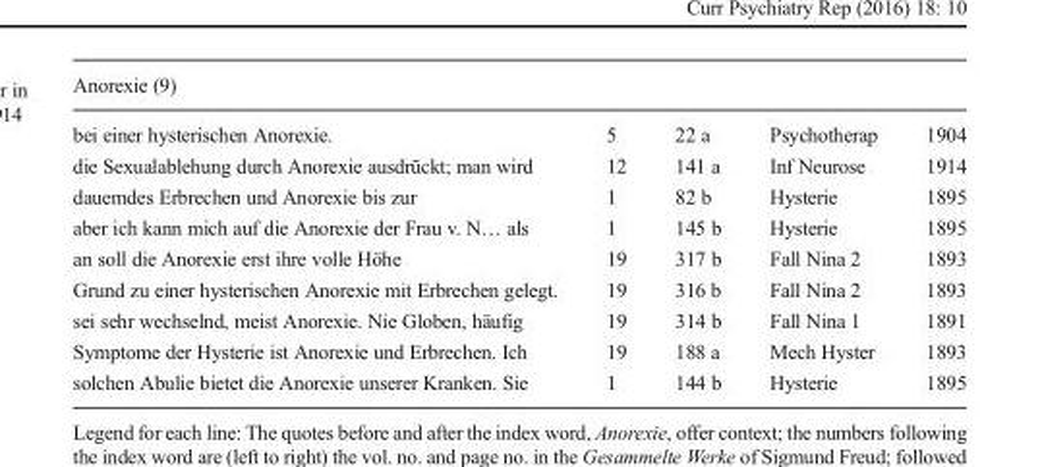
<table><thead><tr><td colspan="5">Anorexie (9)</td></tr><tr><td>bei einer hysterischen Anorexie.</td><td>5</td><td>22 a</td><td>Psychotherap</td><td>1904</td></tr></thead><tbody><tr><td>die Sexualablehung durch Anorexie ausdrūckt; man wird</td><td>12</td><td>141 a</td><td>Inf Neurose</td><td>1914</td></tr><tr><td>dauemdes Erbrechen und Anorexie bis zur</td><td>1</td><td>82 b</td><td>Hysterie</td><td>1895</td></tr><tr><td>aber ich kann mich auf die Anorexie der Frau v. N… als</td><td>1</td><td>145 b</td><td>Hysterie</td><td>1895</td></tr><tr><td>an soll die Anorexie erst ihre volle Höhe</td><td>19</td><td>317 b</td><td>Fall Nina 2</td><td>1893</td></tr><tr><td>Grund zu einer hysterischen Anorexie mit Erbrechen gelegt.</td><td>19</td><td>316 b</td><td>Fall Nina 2</td><td>1893</td></tr><tr><td>sei sehr wechselnd, meist Anorexie. Nie Globen, häufig</td><td>19</td><td>314 b</td><td>Fall Nina 1</td><td>1891</td></tr><tr><td>Symptome der Hysterie ist Anorexie und Erbrechen. Ich</td><td>19</td><td>188 a</td><td>Mech Hyster</td><td>1893</td></tr><tr><td>solchen Abulie bietet die Anorexie unserer Kranken. Sie</td><td>1</td><td>144 b</td><td>Hysterie</td><td>1895</td></tr></tbody></table>